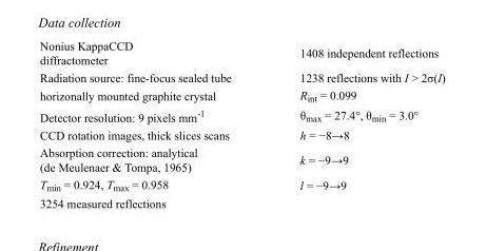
<table><tbody><tr><td>Nonius KappaCCD diffractometer</td><td>1408 independent reflections</td></tr><tr><td>Radiation source: fine-focus sealed tube</td><td>1238 reflections with I &gt; 2σ(I)</td></tr><tr><td>horizonally mounted graphite crystal</td><td>R<sub>int</sub> = 0.099</td></tr><tr><td>Detector resolution: 9 pixels mm<sup>-1</sup></td><td>θ<sub>max</sub> = 27.4°, θ<sub>min</sub> = 3.0°</td></tr><tr><td>CCD rotation images, thick slices scans</td><td>h = −8→8</td></tr><tr><td>Absorption correction: analytical (de Meulenaer &amp; Tompa, 1965)</td><td>k = −9→9</td></tr><tr><td>T<sub>min</sub> = 0.924, T<sub>max</sub> = 0.958</td><td>l = −9→9</td></tr><tr><td>3254 measured reflections</td><td></td></tr></tbody></table>